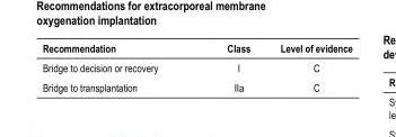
<table><thead><tr><td>Recommendation</td><td>Class</td><td>Level of evidence</td></tr></thead><tbody><tr><td>Bridge to decision or recovery</td><td>I</td><td>C</td></tr><tr><td>Bridge to transplantation</td><td>IIa</td><td>C</td></tr></tbody></table>